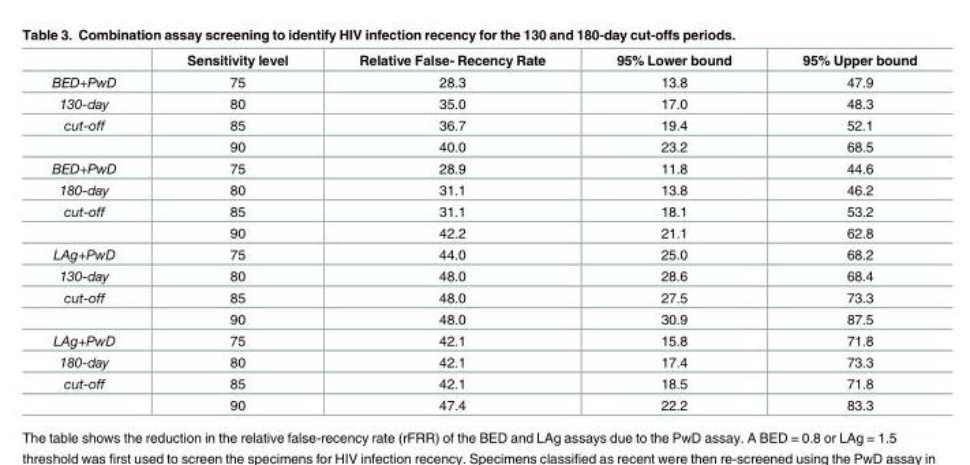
<table><thead><tr><td></td><td>Sensitivity level</td><td>Relative False- Recency Rate</td><td>95% Lower bound</td><td>95% Upper bound</td></tr></thead><tbody><tr><td>BED+PwD</td><td>75</td><td>28.3</td><td>13.8</td><td>47.9</td></tr><tr><td>130-day</td><td>80</td><td>35.0</td><td>17.0</td><td>48.3</td></tr><tr><td rowspan="2">cut-off</td><td>85</td><td>36.7</td><td>19.4</td><td>52.1</td></tr><tr><td>90</td><td>40.0</td><td>23.2</td><td>68.5</td></tr><tr><td>BED+PwD</td><td>75</td><td>28.9</td><td>11.8</td><td>44.6</td></tr><tr><td>180-day</td><td>80</td><td>31.1</td><td>13.8</td><td>46.2</td></tr><tr><td rowspan="2">cut-off</td><td>85</td><td>31.1</td><td>18.1</td><td>53.2</td></tr><tr><td>90</td><td>42.2</td><td>21.1</td><td>62.8</td></tr><tr><td>LAg+PwD</td><td>75</td><td>44.0</td><td>25.0</td><td>68.2</td></tr><tr><td>130-day</td><td>80</td><td>48.0</td><td>28.6</td><td>68.4</td></tr><tr><td rowspan="2">cut-off</td><td>85</td><td>48.0</td><td>27.5</td><td>73.3</td></tr><tr><td>90</td><td>48.0</td><td>30.9</td><td>87.5</td></tr><tr><td>LAg+PwD</td><td>75</td><td>42.1</td><td>15.8</td><td>71.8</td></tr><tr><td>180-day</td><td>80</td><td>42.1</td><td>17.4</td><td>73.3</td></tr><tr><td rowspan="2">cut-off</td><td>85</td><td>42.1</td><td>18.5</td><td>71.8</td></tr><tr><td>90</td><td>47.4</td><td>22.2</td><td>83.3</td></tr></tbody></table>